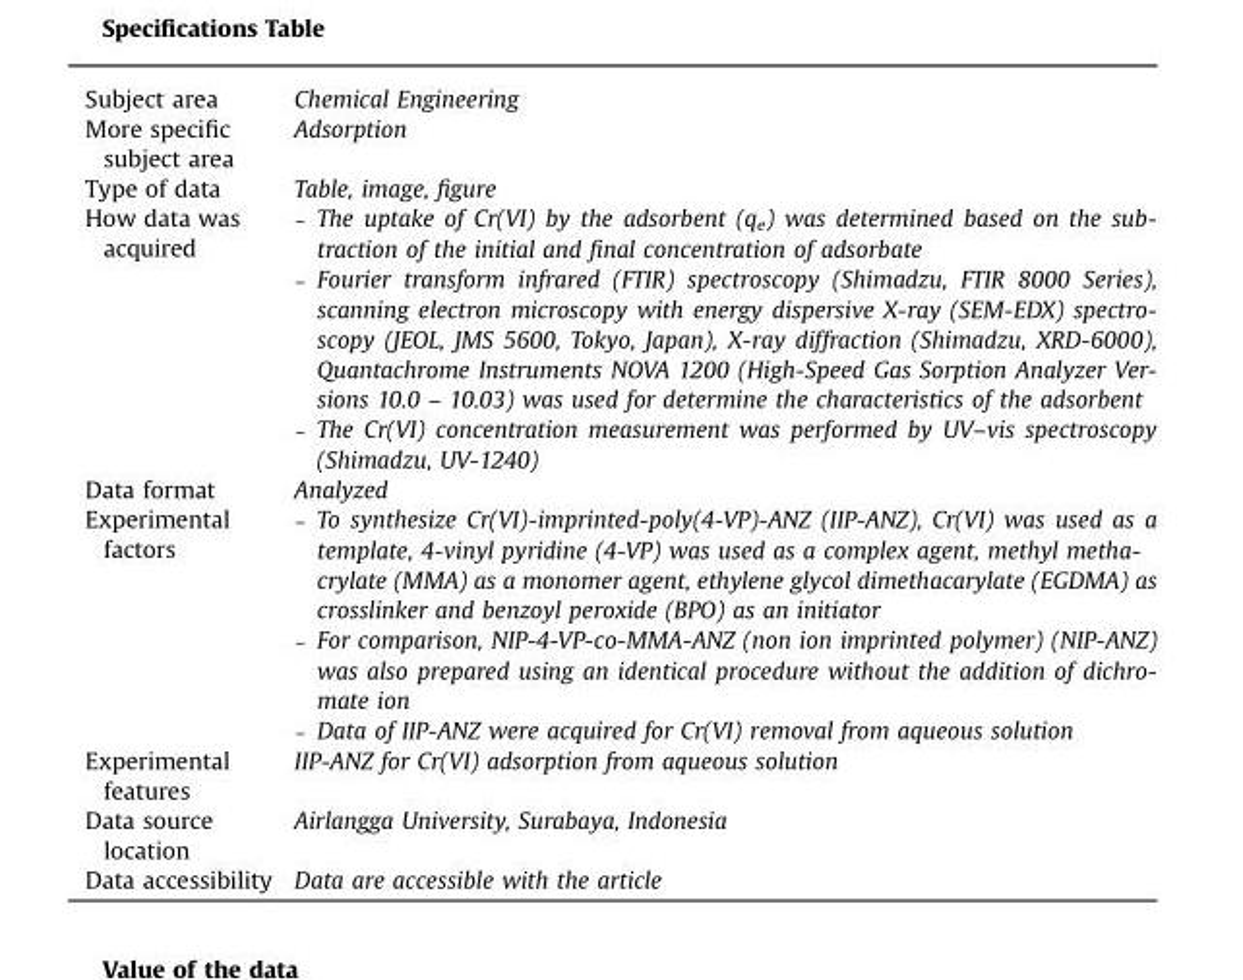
<table><tbody><tr><td>Subject area</td><td>Chemical Engineering</td></tr><tr><td>More specific subject area</td><td>Adsorption</td></tr><tr><td>Type of data</td><td>Table, image, figure</td></tr><tr><td>How data was acquired</td><td>– The uptake of Cr(VI) by the adsorbent (qe) was determined based on the sub- traction of the initial and final concentration of adsorbate – Fourier transform infrared (FTIR) spectroscopy (Shimadzu, FTIR 8000 Series), scanning electron microscopy with energy dispersive X-ray (SEM-EDX) spectro- scopy (JEOL, JMS 5600, Tokyo, Japan), X-ray diffraction (Shimadzu, XRD-6000), Quantachrome Instruments NOVA 1200 (High-Speed Gas Sorption Analyzer Ver- sions 10.0 – 10.03) was used for determine the characteristics of the adsorbent – The Cr(VI) concentration measurement was performed by UV–vis spectroscopy (Shimadzu, UV-1240)</td></tr><tr><td>Data format</td><td>Analyzed</td></tr><tr><td>Experimental factors</td><td>– To synthesize Cr(VI)-imprinted-poly(4-VP)-ANZ (IIP-ANZ), Cr(VI) was used as a template, 4-vinyl pyridine (4-VP) was used as a complex agent, methyl metha- crylate (MMA) as a monomer agent, ethylene glycol dimethacarylate (EGDMA) as crosslinker and benzoyl peroxide (BPO) as an initiator – For comparison, NIP-4-VP-co-MMA-ANZ (non ion imprinted polymer) (NIP-ANZ) was also prepared using an identical procedure without the addition of dichro- mate ion – Data of IIP-ANZ were acquired for Cr(VI) removal from aqueous solution</td></tr><tr><td>Experimental features</td><td>IIP-ANZ for Cr(VI) adsorption from aqueous solution</td></tr><tr><td>Data source location</td><td>Airlangga University, Surabaya, Indonesia</td></tr><tr><td>Data accessibility</td><td>Data are accessible with the article</td></tr></tbody></table>